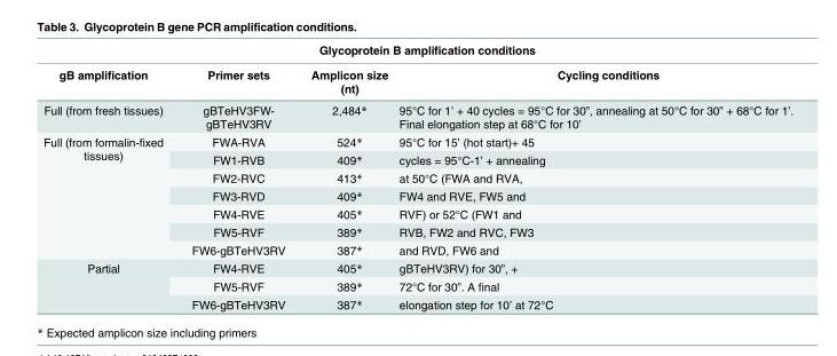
<table><thead><tr><td colspan="4">Glycoprotein B amplification conditions</td></tr><tr><td>gB amplification</td><td>Primer sets</td><td>Amplicon size (nt)</td><td>Cycling conditions</td></tr></thead><tbody><tr><td>Full (from fresh tissues)</td><td>gBTeHV3FW- gBTeHV3RV</td><td>2,484*</td><td>95°C for 1’ + 40 cycles = 95°C for 30”, annealing at 50°C for 30” + 68°C for 1’. Final elongation step at 68°C for 10’</td></tr><tr><td rowspan="7">Full (from formalin-fixed tissues)</td><td>FWA-RVA</td><td>524*</td><td>95°C for 15’ (hot start)+ 45</td></tr><tr><td>FW1-RVB</td><td>409*</td><td>cycles = 95°C-1’ + annealing</td></tr><tr><td>FW2-RVC</td><td>413*</td><td>at 50°C (FWA and RVA,</td></tr><tr><td>FW3-RVD</td><td>409*</td><td>FW4 and RVE, FW5 and</td></tr><tr><td>FW4-RVE</td><td>405*</td><td>RVF) or 52°C (FW1 and</td></tr><tr><td>FW5-RVF</td><td>389*</td><td>RVB, FW2 and RVC, FW3</td></tr><tr><td>FW6-gBTeHV3RV</td><td>387*</td><td>and RVD, FW6 and</td></tr><tr><td rowspan="3">Partial</td><td>FW4-RVE</td><td>405*</td><td>gBTeHV3RV) for 30”, +</td></tr><tr><td>FW5-RVF</td><td>389*</td><td>72°C for 30”. A final</td></tr><tr><td>FW6-gBTeHV3RV</td><td>387*</td><td>elongation step for 10’ at 72°C</td></tr></tbody></table>